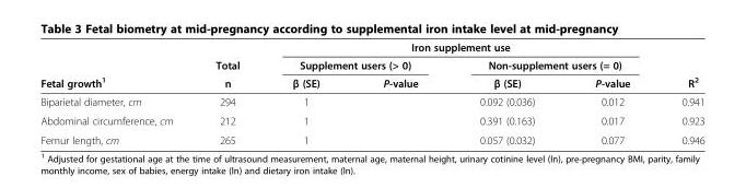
<table><thead><tr><td rowspan="3">Fetal growth<sup>1</sup></td><td rowspan="3">Total n</td><td colspan="4">Iron supplement use</td><td rowspan="3">R<sup>2</sup></td></tr><tr><td colspan="2">Supplement users (&gt; 0)</td><td colspan="2">Non-supplement users (= 0)</td></tr><tr><td>β (SE)</td><td>P-value</td><td>β (SE)</td><td>P-value</td></tr></thead><tbody><tr><td>Biparietal diameter, cm</td><td>294</td><td>1</td><td></td><td>0.092 (0.036)</td><td>0.012</td><td>0.941</td></tr><tr><td>Abdominal circumference, cm</td><td>212</td><td>1</td><td></td><td>0.391 (0.163)</td><td>0.017</td><td>0.923</td></tr><tr><td>Femur length, cm</td><td>265</td><td>1</td><td></td><td>0.057 (0.032)</td><td>0.077</td><td>0.946</td></tr></tbody></table>